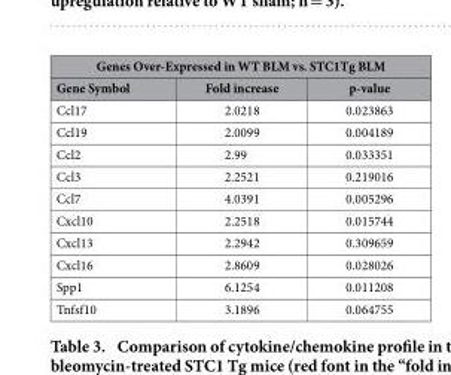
<table><thead><tr><td colspan="3">Genes Over-Expressed in WT BLM vs. STC1Tg BLM</td></tr><tr><td>Gene Symbol</td><td>Fold increase</td><td>p-value</td></tr></thead><tbody><tr><td>Ccl17</td><td>2.0218</td><td>0.023863</td></tr><tr><td>Ccl19</td><td>2.0099</td><td>0.004189</td></tr><tr><td>Ccl2</td><td>2.99</td><td>0.033351</td></tr><tr><td>Ccl3</td><td>2.2521</td><td>0.219016</td></tr><tr><td>Ccl7</td><td>4.0391</td><td>0.005296</td></tr><tr><td>Cxcl10</td><td>2.2518</td><td>0.015744</td></tr><tr><td>Cxcl13</td><td>2.2942</td><td>0.309659</td></tr><tr><td>Cxcl16</td><td>2.8609</td><td>0.028026</td></tr><tr><td>Spp1</td><td>6.1254</td><td>0.011208</td></tr><tr><td>Tnfsf10</td><td>3.1896</td><td>0.064755</td></tr></tbody></table>